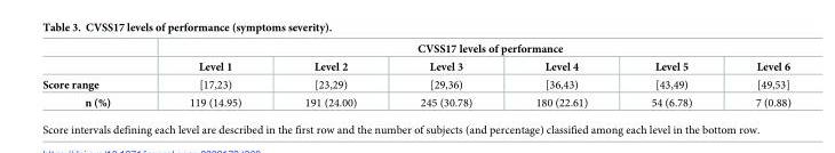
<table><thead><tr><td rowspan="2"></td><td colspan="6">CVSS17 levels of performance</td></tr><tr><td>Level 1</td><td>Level 2</td><td>Level 3</td><td>Level 4</td><td>Level 5</td><td>Level 6</td></tr></thead><tbody><tr><td>Score range</td><td>[17,23)</td><td>[23,29)</td><td>[29,36)</td><td>[36,43)</td><td>[43,49)</td><td>[49,53]</td></tr><tr><td>n (%)</td><td>119 (14.95)</td><td>191 (24.00)</td><td>245 (30.78)</td><td>180 (22.61)</td><td>54 (6.78)</td><td>7 (0.88)</td></tr></tbody></table>